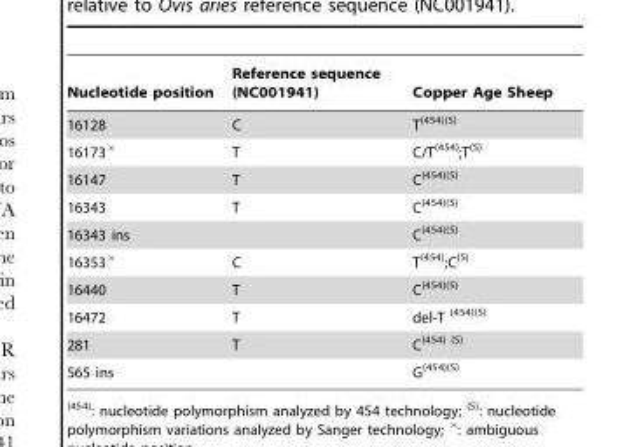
<table><thead><tr><td>Nucleotide position</td><td>Reference sequence (NC001941)</td><td>Copper Age Sheep</td></tr></thead><tbody><tr><td>16128</td><td>C</td><td>T<sup>(454)(S)</sup></td></tr><tr><td>16173<sup>×</sup></td><td>T</td><td>C/T<sup>(454)</sup>;T<sup>(S)</sup></td></tr><tr><td>16147</td><td>T</td><td>C<sup>(454)(S)</sup></td></tr><tr><td>16343</td><td>T</td><td>C<sup>(454)(S)</sup></td></tr><tr><td>16343 ins</td><td></td><td>C<sup>(454)(S)</sup></td></tr><tr><td>16353<sup>×</sup></td><td>C</td><td>T<sup>(454)</sup>;C<sup>(S)</sup></td></tr><tr><td>16440</td><td>T</td><td>C<sup>(454)(S)</sup></td></tr><tr><td>16472</td><td>T</td><td>del-T <sup>(454)(S)</sup></td></tr><tr><td>281</td><td>T</td><td>C<sup>(454) (S)</sup></td></tr><tr><td>565 ins</td><td></td><td>G<sup>(454)(S)</sup></td></tr></tbody></table>